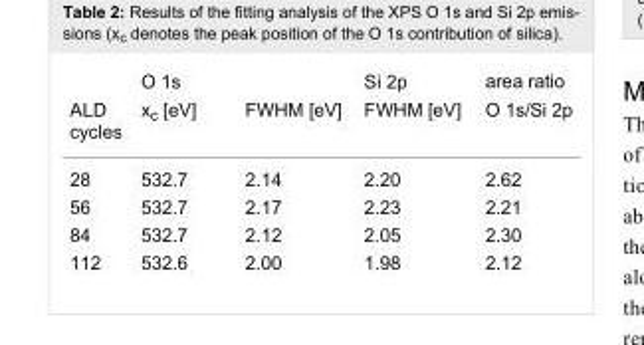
<table><thead><tr><td rowspan="2">ALD cycles</td><td colspan="2">O 1s</td><td rowspan="2">Si 2p FWHM [eV]</td><td rowspan="2">area ratio O 1s/Si 2p</td></tr><tr><td>xc [eV]</td><td>FWHM [eV]</td></tr></thead><tbody><tr><td>28</td><td>532.7</td><td>2.14</td><td>2.20</td><td>2.62</td></tr><tr><td>56</td><td>532.7</td><td>2.17</td><td>2.23</td><td>2.21</td></tr><tr><td>84</td><td>532.7</td><td>2.12</td><td>2.05</td><td>2.30</td></tr><tr><td>112</td><td>532.6</td><td>2.00</td><td>1.98</td><td>2.12</td></tr></tbody></table>